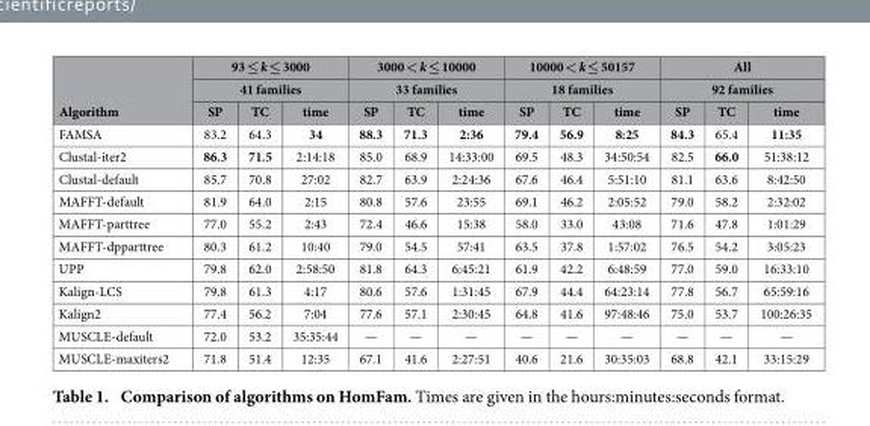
<table><thead><tr><td rowspan="3">Algorithm</td><td rowspan="2" colspan="3">93 ≤ k ≤ 3000 41 families</td><td rowspan="2" colspan="3">3000 &lt; k ≤ 10000 33 families</td><td rowspan="2" colspan="3">10000 &lt; k ≤ 50157 18 families</td><td rowspan="2" colspan="3">All 92 families</td></tr><tr></tr><tr><td>SP</td><td>TC</td><td>time</td><td>SP</td><td>TC</td><td>time</td><td>SP</td><td>TC</td><td>time</td><td>SP</td><td>TC</td><td>time</td></tr></thead><tbody><tr><td>FAMSA</td><td>83.2</td><td>64.3</td><td>34</td><td>88.3</td><td>71.3</td><td>2:36</td><td>79.4</td><td>56.9</td><td>8:25</td><td>84.3</td><td>65.4</td><td>11:35</td></tr><tr><td>Clustal-iter2</td><td>86.3</td><td>71.5</td><td>2:14:18</td><td>85.0</td><td>68.9</td><td>14:33:00</td><td>69.5</td><td>48.3</td><td>34:50:54</td><td>82.5</td><td>66.0</td><td>51:38:12</td></tr><tr><td>Clustal-default</td><td>85.7</td><td>70.8</td><td>27:02</td><td>82.7</td><td>63.9</td><td>2:24:36</td><td>67.6</td><td>46.4</td><td>5:51:10</td><td>81.1</td><td>63.6</td><td>8:42:50</td></tr><tr><td>MAFFT-default</td><td>81.9</td><td>64.0</td><td>2:15</td><td>80.8</td><td>57.6</td><td>23:55</td><td>69.1</td><td>46.2</td><td>2:05:52</td><td>79.0</td><td>58.2</td><td>2:32:02</td></tr><tr><td>MAFFT-parttree</td><td>77.0</td><td>55.2</td><td>2:43</td><td>72.4</td><td>46.6</td><td>15:38</td><td>58.0</td><td>33.0</td><td>43:08</td><td>71.6</td><td>47.8</td><td>1:01:29</td></tr><tr><td>MAFFT-dpparttree</td><td>80.3</td><td>61.2</td><td>10:40</td><td>79.0</td><td>54.5</td><td>57:41</td><td>63.5</td><td>37.8</td><td>1:57:02</td><td>76.5</td><td>54.2</td><td>3:05:23</td></tr><tr><td>UPP</td><td>79.8</td><td>62.0</td><td>2:58:50</td><td>81.8</td><td>64.3</td><td>6:45:21</td><td>61.9</td><td>42.2</td><td>6:48:59</td><td>77.0</td><td>59.0</td><td>16:33:10</td></tr><tr><td>Kalign-LCS</td><td>79.8</td><td>61.3</td><td>4:17</td><td>80.6</td><td>57.6</td><td>1:31:45</td><td>67.9</td><td>44.4</td><td>64:23:14</td><td>77.8</td><td>56.7</td><td>65:59:16</td></tr><tr><td>Kalign2</td><td>77.4</td><td>56.2</td><td>7:04</td><td>77.6</td><td>57.1</td><td>2:30:45</td><td>64.8</td><td>41.6</td><td>97:48:46</td><td>75.0</td><td>53.7</td><td>100:26:35</td></tr><tr><td>MUSCLE-default</td><td>72.0</td><td>53.2</td><td>35:35:44</td><td>—</td><td>—</td><td>—</td><td>—</td><td>—</td><td>—</td><td>—</td><td>—</td><td>—</td></tr><tr><td>MUSCLE-maxiters2</td><td>71.8</td><td>51.4</td><td>12:35</td><td>67.1</td><td>41.6</td><td>2:27:51</td><td>40.6</td><td>21.6</td><td>30:35:03</td><td>68.8</td><td>42.1</td><td>33:15:29</td></tr></tbody></table>